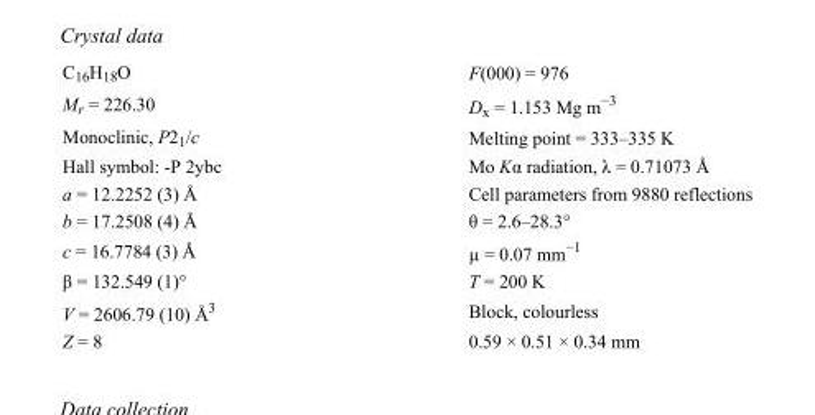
<table><tbody><tr><td>C<sub>16</sub>H<sub>18</sub>O</td><td>F(000) = 976</td></tr><tr><td>M<sub>r</sub> = 226.30</td><td>D<sub>x</sub> = 1.153 Mg m<sup>−3</sup></td></tr><tr><td>Monoclinic, P2<sub>1</sub>/c</td><td>Melting point = 333–335 K</td></tr><tr><td>Hall symbol: -P 2ybc</td><td>Mo Kα radiation, λ = 0.71073 Å</td></tr><tr><td>a = 12.2252 (3) Å</td><td>Cell parameters from 9880 reflections</td></tr><tr><td>b = 17.2508 (4) Å</td><td>θ = 2.6–28.3°</td></tr><tr><td>c = 16.7784 (3) Å</td><td>µ = 0.07 mm<sup>−1</sup></td></tr><tr><td>β = 132.549 (1)°</td><td>T = 200 K</td></tr><tr><td>V = 2606.79 (10) Å<sup>3</sup></td><td>Block, colourless</td></tr><tr><td>Z = 8</td><td>0.59 × 0.51 × 0.34 mm</td></tr></tbody></table>